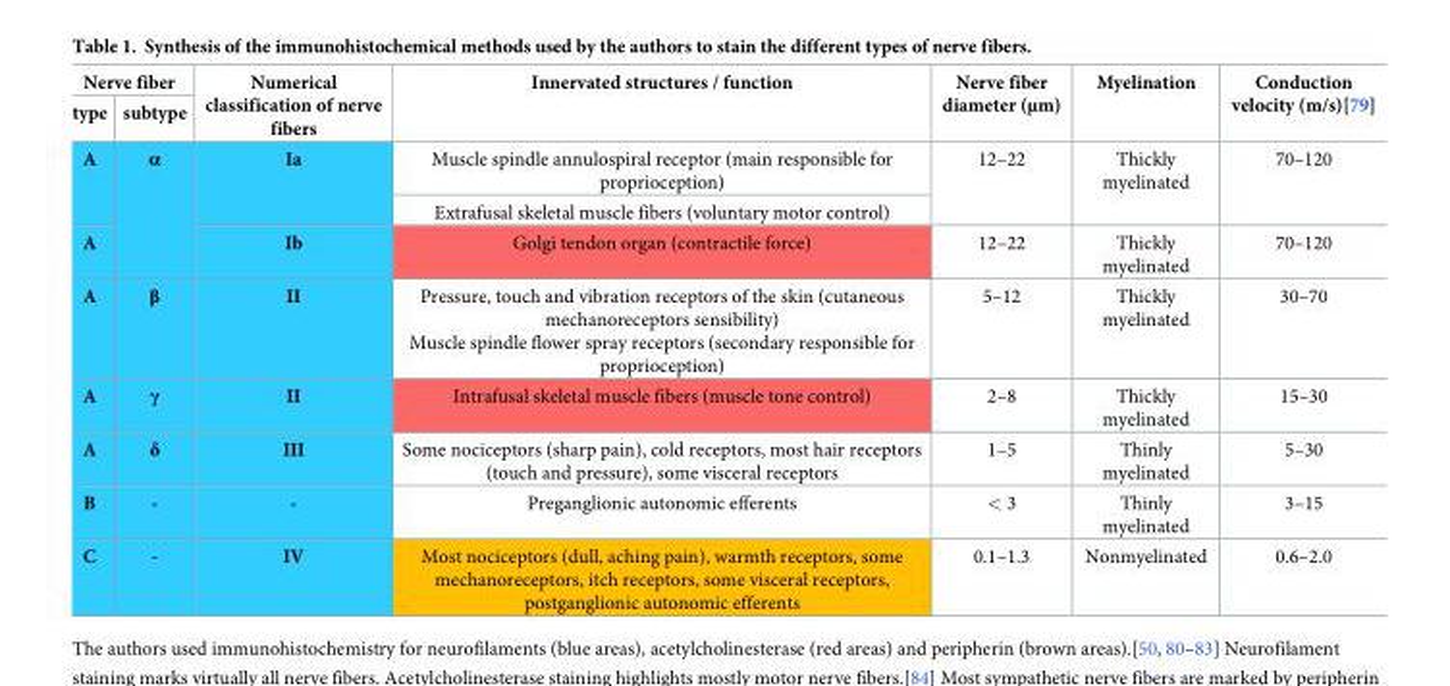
<table><thead><tr><td colspan="2">Nerve fiber</td><td rowspan="2">Numerical classification of nerve fibers</td><td rowspan="2">Innervated structures / function</td><td rowspan="2">Nerve fiber diameter (μm)</td><td rowspan="2">Myelination</td><td rowspan="2">Conduction velocity (m/s)[79]</td></tr><tr><td>type</td><td>subtype</td></tr></thead><tbody><tr><td rowspan="2">A</td><td rowspan="3">α</td><td rowspan="2">Ia</td><td>Muscle spindle annulospiral receptor (main responsible for proprioception)</td><td rowspan="2">12–22</td><td rowspan="2">Thickly myelinated</td><td rowspan="2">70–120</td></tr><tr><td>Extrafusal skeletal muscle fibers (voluntary motor control)</td></tr><tr><td>A</td><td>Ib</td><td>Golgi tendon organ (contractile force)</td><td>12–22</td><td>Thickly myelinated</td><td>70–120</td></tr><tr><td>A</td><td>β</td><td>II</td><td>Pressure, touch and vibration receptors of the skin (cutaneous mechanoreceptors sensibility) Muscle spindle flower spray receptors (secondary responsible for proprioception)</td><td>5–12</td><td>Thickly myelinated</td><td>30–70</td></tr><tr><td>A</td><td>γ</td><td>II</td><td>Intrafusal skeletal muscle fibers (muscle tone control)</td><td>2–8</td><td>Thickly myelinated</td><td>15–30</td></tr><tr><td>A</td><td>δ</td><td>III</td><td>Some nociceptors (sharp pain), cold receptors, most hair receptors (touch and pressure), some visceral receptors</td><td>1–5</td><td>Thinly myelinated</td><td>5–30</td></tr><tr><td>B</td><td>-</td><td>-</td><td>Preganglionic autonomic efferents</td><td>&lt; 3</td><td>Thinly myelinated</td><td>3–15</td></tr><tr><td>C</td><td>-</td><td>IV</td><td>Most nociceptors (dull, aching pain), warmth receptors, some mechanoreceptors, itch receptors, some visceral receptors, postganglionic autonomic efferents</td><td>0.1–1.3</td><td>Nonmyelinated</td><td>0.6–2.0</td></tr></tbody></table>